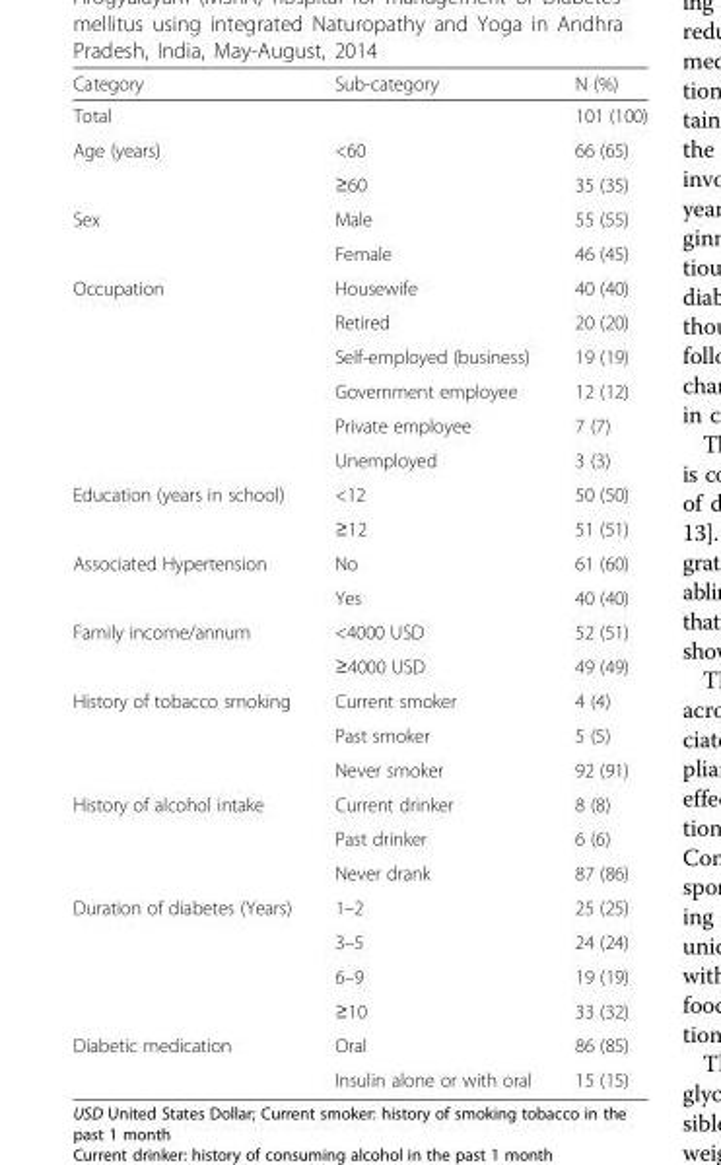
<table><thead><tr><td>Category</td><td>Sub-category</td><td>N (%)</td></tr></thead><tbody><tr><td>Total</td><td></td><td>101 (100)</td></tr><tr><td rowspan="2">Age (years)</td><td>&lt;60</td><td>66 (65)</td></tr><tr><td>≥60</td><td>35 (35)</td></tr><tr><td rowspan="2">Sex</td><td>Male</td><td>55 (55)</td></tr><tr><td>Female</td><td>46 (45)</td></tr><tr><td rowspan="6">Occupation</td><td>Housewife</td><td>40 (40)</td></tr><tr><td>Retired</td><td>20 (20)</td></tr><tr><td>Self-employed (business)</td><td>19 (19)</td></tr><tr><td>Government employee</td><td>12 (12)</td></tr><tr><td>Private employee</td><td>7 (7)</td></tr><tr><td>Unemployed</td><td>3 (3)</td></tr><tr><td rowspan="2">Education (years in school)</td><td>&lt;12</td><td>50 (50)</td></tr><tr><td>≥12</td><td>51 (51)</td></tr><tr><td rowspan="2">Associated Hypertension</td><td>No</td><td>61 (60)</td></tr><tr><td>Yes</td><td>40 (40)</td></tr><tr><td rowspan="2">Family income/annum</td><td>&lt;4000 USD</td><td>52 (51)</td></tr><tr><td>≥4000 USD</td><td>49 (49)</td></tr><tr><td rowspan="3">History of tobacco smoking</td><td>Current smoker</td><td>4 (4)</td></tr><tr><td>Past smoker</td><td>5 (5)</td></tr><tr><td>Never smoker</td><td>92 (91)</td></tr><tr><td rowspan="3">History of alcohol intake</td><td>Current drinker</td><td>8 (8)</td></tr><tr><td>Past drinker</td><td>6 (6)</td></tr><tr><td>Never drank</td><td>87 (86)</td></tr><tr><td rowspan="4">Duration of diabetes (Years)</td><td>1–2</td><td>25 (25)</td></tr><tr><td>3–5</td><td>24 (24)</td></tr><tr><td>6–9</td><td>19 (19)</td></tr><tr><td>≥10</td><td>33 (32)</td></tr><tr><td rowspan="2">Diabetic medication</td><td>Oral</td><td>86 (85)</td></tr><tr><td>Insulin alone or with oral</td><td>15 (15)</td></tr></tbody></table>